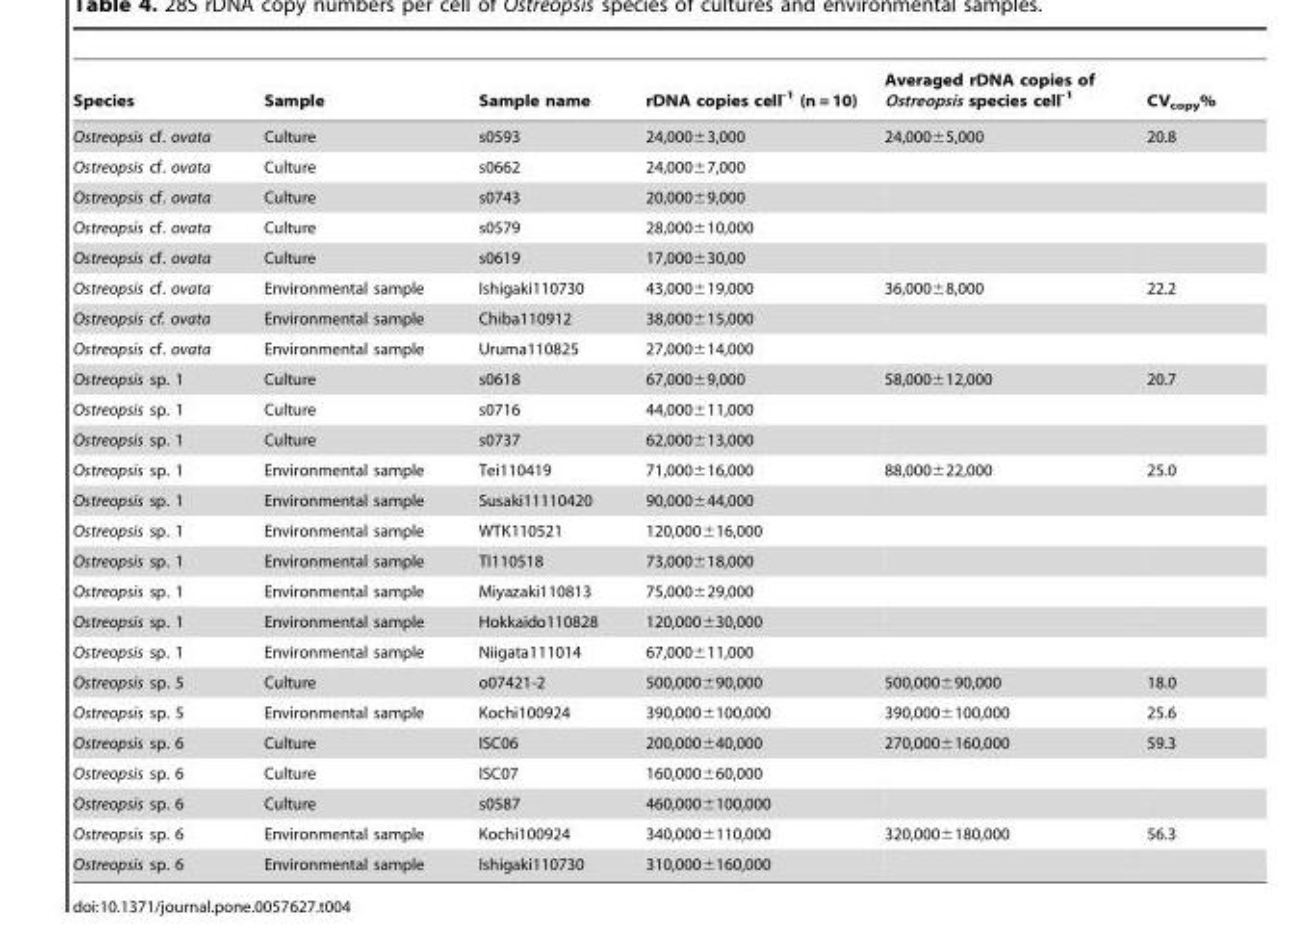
<table><thead><tr><td>Species</td><td>Sample</td><td>Sample name</td><td>rDNA copies cell<sup>-1</sup> (n = 10)</td><td>Averaged rDNA copies of Ostreopsis species cell<sup>-1</sup></td><td>CV<sub>copy</sub>%</td></tr></thead><tbody><tr><td>Ostreopsis cf. ovata</td><td>Culture</td><td>s0593</td><td>24,000±3,000</td><td>24,000±5,000</td><td>20.8</td></tr><tr><td>Ostreopsis cf. ovata</td><td>Culture</td><td>s0662</td><td>24,000±7,000</td><td></td><td></td></tr><tr><td>Ostreopsis cf. ovata</td><td>Culture</td><td>s0743</td><td>20,000±9,000</td><td></td><td></td></tr><tr><td>Ostreopsis cf. ovata</td><td>Culture</td><td>s0579</td><td>28,000±10,000</td><td></td><td></td></tr><tr><td>Ostreopsis cf. ovata</td><td>Culture</td><td>s0619</td><td>17,000±30,00</td><td></td><td></td></tr><tr><td>Ostreopsis cf. ovata</td><td>Environmental sample</td><td>Ishigaki110730</td><td>43,000±19,000</td><td>36,000±8,000</td><td>22.2</td></tr><tr><td>Ostreopsis cf. ovata</td><td>Environmental sample</td><td>Chiba110912</td><td>38,000±15,000</td><td></td><td></td></tr><tr><td>Ostreopsis cf. ovata</td><td>Environmental sample</td><td>Uruma110825</td><td>27,000±14,000</td><td></td><td></td></tr><tr><td>Ostreopsis sp. 1</td><td>Culture</td><td>s0618</td><td>67,000±9,000</td><td>58,000±12,000</td><td>20.7</td></tr><tr><td>Ostreopsis sp. 1</td><td>Culture</td><td>s0716</td><td>44,000±11,000</td><td></td><td></td></tr><tr><td>Ostreopsis sp. 1</td><td>Culture</td><td>s0737</td><td>62,000±13,000</td><td></td><td></td></tr><tr><td>Ostreopsis sp. 1</td><td>Environmental sample</td><td>Tei110419</td><td>71,000±16,000</td><td>88,000±22,000</td><td>25.0</td></tr><tr><td>Ostreopsis sp. 1</td><td>Environmental sample</td><td>Susaki11110420</td><td>90,000±44,000</td><td></td><td></td></tr><tr><td>Ostreopsis sp. 1</td><td>Environmental sample</td><td>WTK110521</td><td>120,000±16,000</td><td></td><td></td></tr><tr><td>Ostreopsis sp. 1</td><td>Environmental sample</td><td>TI110518</td><td>73,000±18,000</td><td></td><td></td></tr><tr><td>Ostreopsis sp. 1</td><td>Environmental sample</td><td>Miyazaki110813</td><td>75,000±29,000</td><td></td><td></td></tr><tr><td>Ostreopsis sp. 1</td><td>Environmental sample</td><td>Hokkaido110828</td><td>120,000±30,000</td><td></td><td></td></tr><tr><td>Ostreopsis sp. 1</td><td>Environmental sample</td><td>Niigata111014</td><td>67,000±11,000</td><td></td><td></td></tr><tr><td>Ostreopsis sp. 5</td><td>Culture</td><td>o07421-2</td><td>500,000±90,000</td><td>500,000±90,000</td><td>18.0</td></tr><tr><td>Ostreopsis sp. 5</td><td>Environmental sample</td><td>Kochi100924</td><td>390,000±100,000</td><td>390,000±100,000</td><td>25.6</td></tr><tr><td>Ostreopsis sp. 6</td><td>Culture</td><td>ISC06</td><td>200,000±40,000</td><td>270,000±160,000</td><td>59.3</td></tr><tr><td>Ostreopsis sp. 6</td><td>Culture</td><td>ISC07</td><td>160,000±60,000</td><td></td><td></td></tr><tr><td>Ostreopsis sp. 6</td><td>Culture</td><td>s0587</td><td>460,000±100,000</td><td></td><td></td></tr><tr><td>Ostreopsis sp. 6</td><td>Environmental sample</td><td>Kochi100924</td><td>340,000±110,000</td><td>320,000±180,000</td><td>56.3</td></tr><tr><td>Ostreopsis sp. 6</td><td>Environmental sample</td><td>Ishigaki110730</td><td>310,000±160,000</td><td></td><td></td></tr></tbody></table>